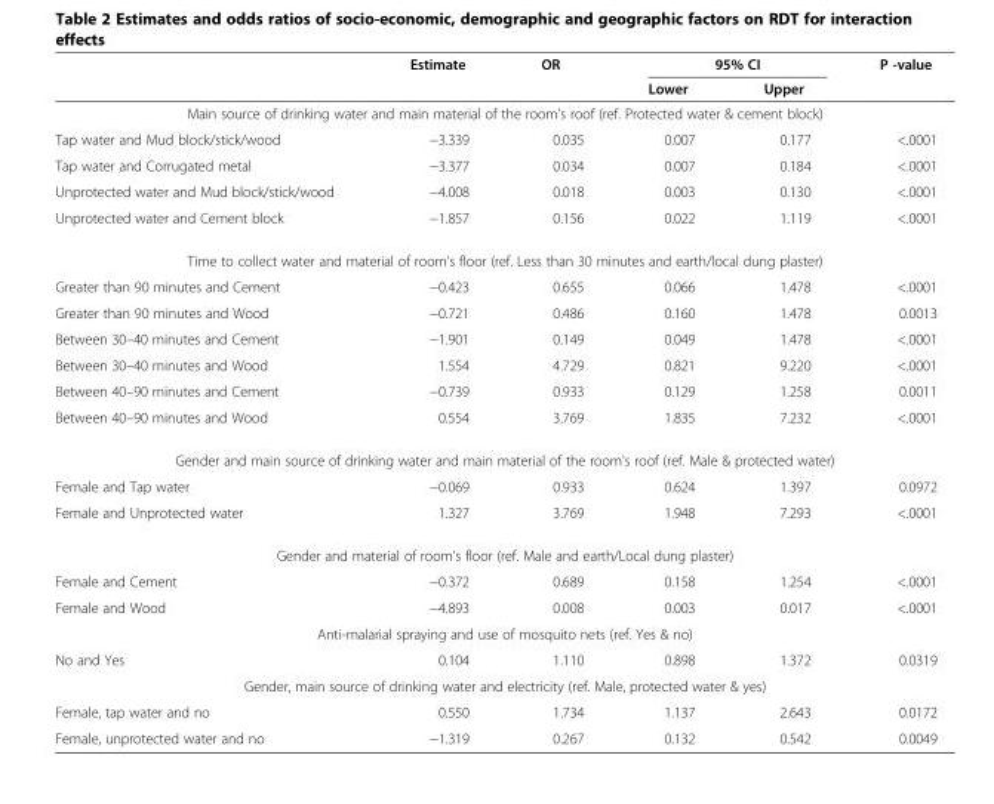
<table><thead><tr><td rowspan="2"></td><td rowspan="2">Estimate</td><td rowspan="2">OR</td><td colspan="2">95% CI</td><td rowspan="2">P -value</td></tr><tr><td>Lower</td><td>Upper</td></tr></thead><tbody><tr><td colspan="6">Main source of drinking water and main material of the room&#x27;s roof (ref. Protected water &amp; cement block)</td></tr><tr><td>Tap water and Mud block/stick/wood</td><td>−3.339</td><td>0.035</td><td>0.007</td><td>0.177</td><td>&lt;.0001</td></tr><tr><td>Tap water and Corrugated metal</td><td>−3.377</td><td>0.034</td><td>0.007</td><td>0.184</td><td>&lt;.0001</td></tr><tr><td>Unprotected water and Mud block/stick/wood</td><td>−4.008</td><td>0.018</td><td>0.003</td><td>0.130</td><td>&lt;.0001</td></tr><tr><td>Unprotected water and Cement block</td><td>−1.857</td><td>0.156</td><td>0.022</td><td>1.119</td><td>&lt;.0001</td></tr><tr><td colspan="6">Time to collect water and material of room&#x27;s floor (ref. Less than 30 minutes and earth/local dung plaster)</td></tr><tr><td>Greater than 90 minutes and Cement</td><td>−0.423</td><td>0.655</td><td>0.066</td><td>1.478</td><td>&lt;.0001</td></tr><tr><td>Greater than 90 minutes and Wood</td><td>−0.721</td><td>0.486</td><td>0.160</td><td>1.478</td><td>0.0013</td></tr><tr><td>Between 30–40 minutes and Cement</td><td>−1.901</td><td>0.149</td><td>0.049</td><td>1.478</td><td>&lt;.0001</td></tr><tr><td>Between 30–40 minutes and Wood</td><td>1.554</td><td>4.729</td><td>0.821</td><td>9.220</td><td>&lt;.0001</td></tr><tr><td>Between 40–90 minutes and Cement</td><td>−0.739</td><td>0.933</td><td>0.129</td><td>1.258</td><td>0.0011</td></tr><tr><td>Between 40–90 minutes and Wood</td><td>0.554</td><td>3.769</td><td>1.835</td><td>7.232</td><td>&lt;.0001</td></tr><tr><td colspan="6">Gender and main source of drinking water and main material of the room&#x27;s roof (ref. Male &amp; protected water)</td></tr><tr><td>Female and Tap water</td><td>−0.069</td><td>0.933</td><td>0.624</td><td>1.397</td><td>0.0972</td></tr><tr><td>Female and Unprotected water</td><td>1.327</td><td>3.769</td><td>1.948</td><td>7.293</td><td>&lt;.0001</td></tr><tr><td colspan="6">Gender and material of room&#x27;s floor (ref. Male and earth/Local dung plaster)</td></tr><tr><td>Female and Cement</td><td>−0.372</td><td>0.689</td><td>0.158</td><td>1.254</td><td>&lt;.0001</td></tr><tr><td>Female and Wood</td><td>−4.893</td><td>0.008</td><td>0.003</td><td>0.017</td><td>&lt;.0001</td></tr><tr><td colspan="6">Anti-malarial spraying and use of mosquito nets (ref. Yes &amp; no)</td></tr><tr><td>No and Yes</td><td>0.104</td><td>1.110</td><td>0.898</td><td>1.372</td><td>0.0319</td></tr><tr><td colspan="6">Gender, main source of drinking water and electricity (ref. Male, protected water &amp; yes)</td></tr><tr><td>Female, tap water and no</td><td>0.550</td><td>1.734</td><td>1.137</td><td>2.643</td><td>0.0172</td></tr><tr><td>Female, unprotected water and no</td><td>−1.319</td><td>0.267</td><td>0.132</td><td>0.542</td><td>0.0049</td></tr></tbody></table>